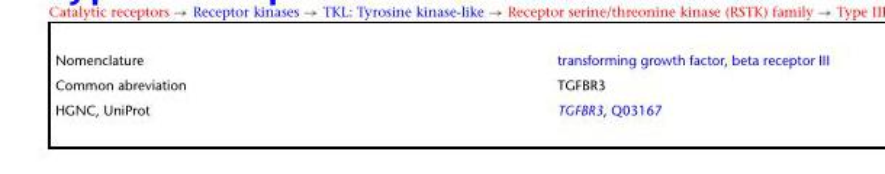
<table><tbody><tr><td>Nomenclature</td><td>transforming growth factor, beta receptor III</td></tr><tr><td>Common abreviation</td><td>TGFBR3</td></tr><tr><td>HGNC, UniProt</td><td>TGFBR3, Q03167</td></tr></tbody></table>